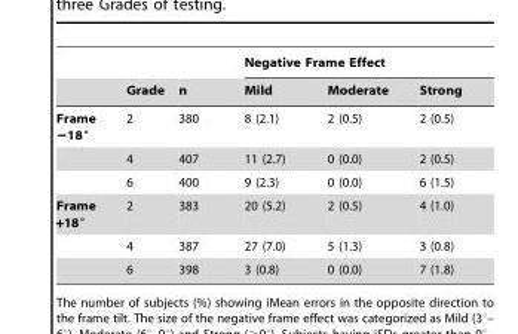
<table><thead><tr><td rowspan="2"></td><td rowspan="2">Grade</td><td rowspan="2">n</td><td colspan="3">Negative Frame Effect</td></tr><tr><td>Mild</td><td>Moderate</td><td>Strong</td></tr></thead><tbody><tr><td rowspan="3">Frame −18°</td><td>2</td><td>380</td><td>8 (2.1)</td><td>2 (0.5)</td><td>2 (0.5)</td></tr><tr><td>4</td><td>407</td><td>11 (2.7)</td><td>0 (0.0)</td><td>2 (0.5)</td></tr><tr><td>6</td><td>400</td><td>9 (2.3)</td><td>0 (0.0)</td><td>6 (1.5)</td></tr><tr><td rowspan="3">Frame +18°</td><td>2</td><td>383</td><td>20 (5.2)</td><td>2 (0.5)</td><td>4 (1.0)</td></tr><tr><td>4</td><td>387</td><td>27 (7.0)</td><td>5 (1.3)</td><td>3 (0.8)</td></tr><tr><td>6</td><td>398</td><td>3 (0.8)</td><td>0 (0.0)</td><td>7 (1.8)</td></tr></tbody></table>